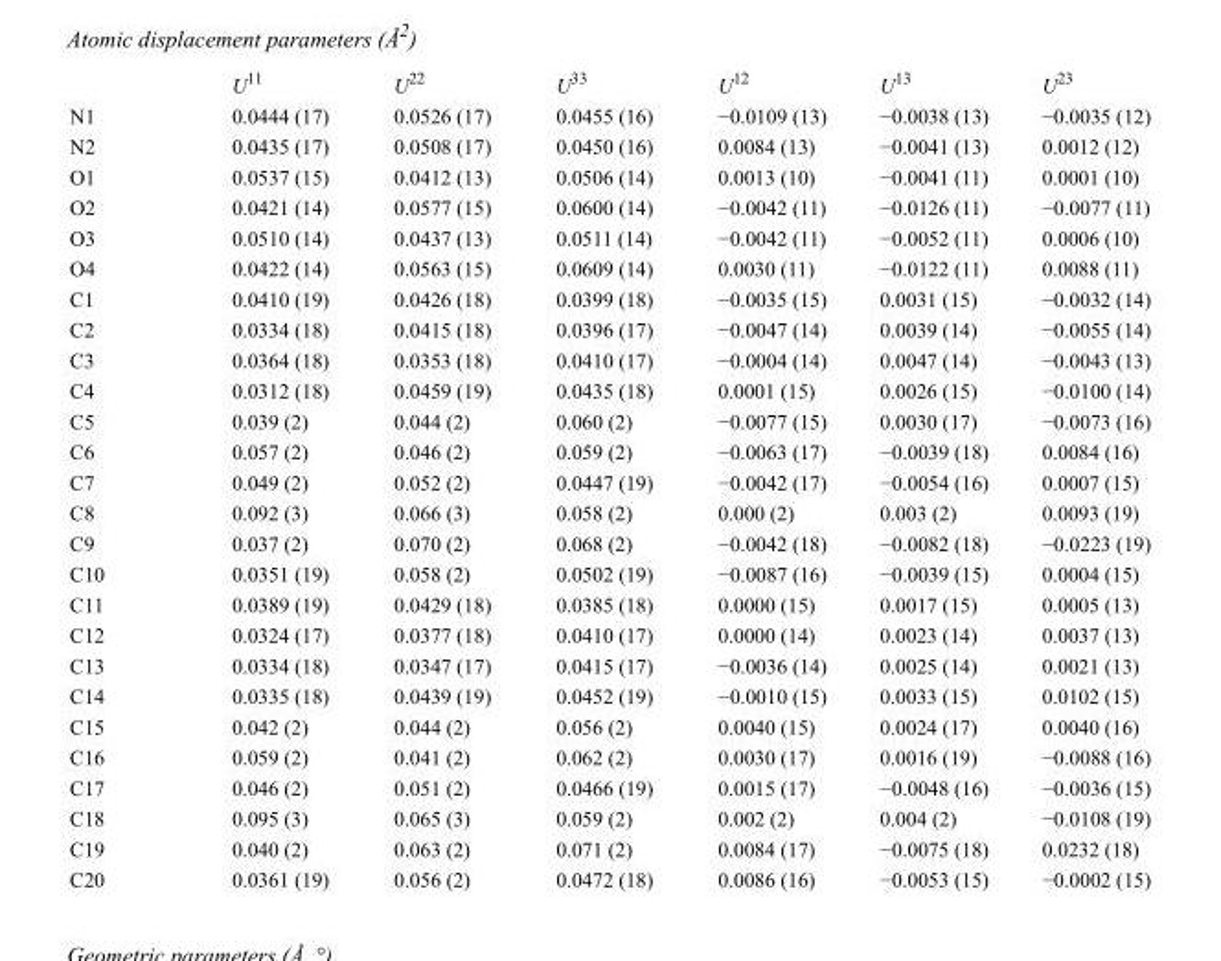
<table><thead><tr><td></td><td>U<sup>11</sup></td><td>U<sup>22</sup></td><td>U<sup>33</sup></td><td>U<sup>12</sup></td><td>U<sup>13</sup></td><td>U<sup>23</sup></td></tr></thead><tbody><tr><td>N1</td><td>0.0444 (17)</td><td>0.0526 (17)</td><td>0.0455 (16)</td><td>−0.0109 (13)</td><td>−0.0038 (13)</td><td>−0.0035 (12)</td></tr><tr><td>N2</td><td>0.0435 (17)</td><td>0.0508 (17)</td><td>0.0450 (16)</td><td>0.0084 (13)</td><td>−0.0041 (13)</td><td>0.0012 (12)</td></tr><tr><td>O1</td><td>0.0537 (15)</td><td>0.0412 (13)</td><td>0.0506 (14)</td><td>0.0013 (10)</td><td>−0.0041 (11)</td><td>0.0001 (10)</td></tr><tr><td>O2</td><td>0.0421 (14)</td><td>0.0577 (15)</td><td>0.0600 (14)</td><td>−0.0042 (11)</td><td>−0.0126 (11)</td><td>−0.0077 (11)</td></tr><tr><td>O3</td><td>0.0510 (14)</td><td>0.0437 (13)</td><td>0.0511 (14)</td><td>−0.0042 (11)</td><td>−0.0052 (11)</td><td>0.0006 (10)</td></tr><tr><td>O4</td><td>0.0422 (14)</td><td>0.0563 (15)</td><td>0.0609 (14)</td><td>0.0030 (11)</td><td>−0.0122 (11)</td><td>0.0088 (11)</td></tr><tr><td>C1</td><td>0.0410 (19)</td><td>0.0426 (18)</td><td>0.0399 (18)</td><td>−0.0035 (15)</td><td>0.0031 (15)</td><td>−0.0032 (14)</td></tr><tr><td>C2</td><td>0.0334 (18)</td><td>0.0415 (18)</td><td>0.0396 (17)</td><td>−0.0047 (14)</td><td>0.0039 (14)</td><td>−0.0055 (14)</td></tr><tr><td>C3</td><td>0.0364 (18)</td><td>0.0353 (18)</td><td>0.0410 (17)</td><td>−0.0004 (14)</td><td>0.0047 (14)</td><td>−0.0043 (13)</td></tr><tr><td>C4</td><td>0.0312 (18)</td><td>0.0459 (19)</td><td>0.0435 (18)</td><td>0.0001 (15)</td><td>0.0026 (15)</td><td>−0.0100 (14)</td></tr><tr><td>C5</td><td>0.039 (2)</td><td>0.044 (2)</td><td>0.060 (2)</td><td>−0.0077 (15)</td><td>0.0030 (17)</td><td>−0.0073 (16)</td></tr><tr><td>C6</td><td>0.057 (2)</td><td>0.046 (2)</td><td>0.059 (2)</td><td>−0.0063 (17)</td><td>−0.0039 (18)</td><td>0.0084 (16)</td></tr><tr><td>C7</td><td>0.049 (2)</td><td>0.052 (2)</td><td>0.0447 (19)</td><td>−0.0042 (17)</td><td>−0.0054 (16)</td><td>0.0007 (15)</td></tr><tr><td>C8</td><td>0.092 (3)</td><td>0.066 (3)</td><td>0.058 (2)</td><td>0.000 (2)</td><td>0.003 (2)</td><td>0.0093 (19)</td></tr><tr><td>C9</td><td>0.037 (2)</td><td>0.070 (2)</td><td>0.068 (2)</td><td>−0.0042 (18)</td><td>−0.0082 (18)</td><td>−0.0223 (19)</td></tr><tr><td>C10</td><td>0.0351 (19)</td><td>0.058 (2)</td><td>0.0502 (19)</td><td>−0.0087 (16)</td><td>−0.0039 (15)</td><td>0.0004 (15)</td></tr><tr><td>C11</td><td>0.0389 (19)</td><td>0.0429 (18)</td><td>0.0385 (18)</td><td>0.0000 (15)</td><td>0.0017 (15)</td><td>0.0005 (13)</td></tr><tr><td>C12</td><td>0.0324 (17)</td><td>0.0377 (18)</td><td>0.0410 (17)</td><td>0.0000 (14)</td><td>0.0023 (14)</td><td>0.0037 (13)</td></tr><tr><td>C13</td><td>0.0334 (18)</td><td>0.0347 (17)</td><td>0.0415 (17)</td><td>−0.0036 (14)</td><td>0.0025 (14)</td><td>0.0021 (13)</td></tr><tr><td>C14</td><td>0.0335 (18)</td><td>0.0439 (19)</td><td>0.0452 (19)</td><td>−0.0010 (15)</td><td>0.0033 (15)</td><td>0.0102 (15)</td></tr><tr><td>C15</td><td>0.042 (2)</td><td>0.044 (2)</td><td>0.056 (2)</td><td>0.0040 (15)</td><td>0.0024 (17)</td><td>0.0040 (16)</td></tr><tr><td>C16</td><td>0.059 (2)</td><td>0.041 (2)</td><td>0.062 (2)</td><td>0.0030 (17)</td><td>0.0016 (19)</td><td>−0.0088 (16)</td></tr><tr><td>C17</td><td>0.046 (2)</td><td>0.051 (2)</td><td>0.0466 (19)</td><td>0.0015 (17)</td><td>−0.0048 (16)</td><td>−0.0036 (15)</td></tr><tr><td>C18</td><td>0.095 (3)</td><td>0.065 (3)</td><td>0.059 (2)</td><td>0.002 (2)</td><td>0.004 (2)</td><td>−0.0108 (19)</td></tr><tr><td>C19</td><td>0.040 (2)</td><td>0.063 (2)</td><td>0.071 (2)</td><td>0.0084 (17)</td><td>−0.0075 (18)</td><td>0.0232 (18)</td></tr><tr><td>C20</td><td>0.0361 (19)</td><td>0.056 (2)</td><td>0.0472 (18)</td><td>0.0086 (16)</td><td>−0.0053 (15)</td><td>−0.0002 (15)</td></tr></tbody></table>